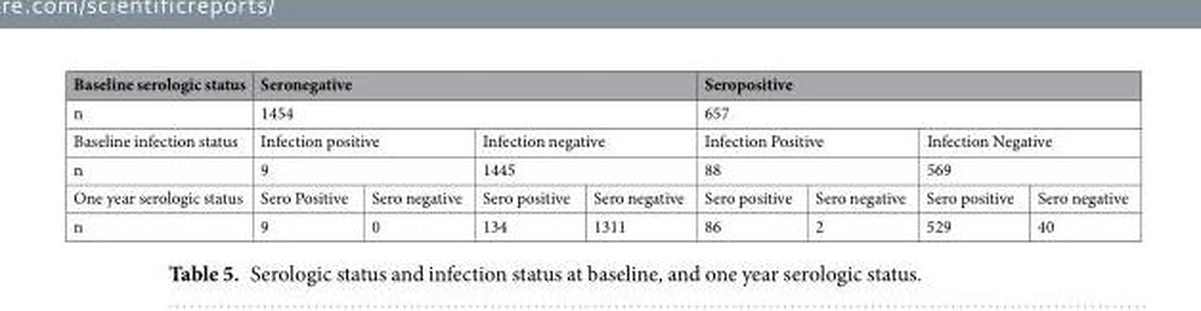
<table><thead><tr><td>Baseline serologic status</td><td colspan="4">Seronegative</td><td colspan="4">Seropositive</td></tr></thead><tbody><tr><td>n</td><td colspan="4">1454</td><td colspan="4">657</td></tr><tr><td>Baseline infection status</td><td colspan="2">Infection positive</td><td colspan="2">Infection negative</td><td colspan="2">Infection Positive</td><td colspan="2">Infection Negative</td></tr><tr><td>n</td><td colspan="2">9</td><td colspan="2">1445</td><td colspan="2">88</td><td colspan="2">569</td></tr><tr><td>One year serologic status</td><td>Sero Positive</td><td>Sero negative</td><td>Sero positive</td><td>Sero negative</td><td>Sero positive</td><td>Sero negative</td><td>Sero positive</td><td>Sero negative</td></tr><tr><td>n</td><td>9</td><td>0</td><td>134</td><td>1311</td><td>86</td><td>2</td><td>529</td><td>40</td></tr></tbody></table>